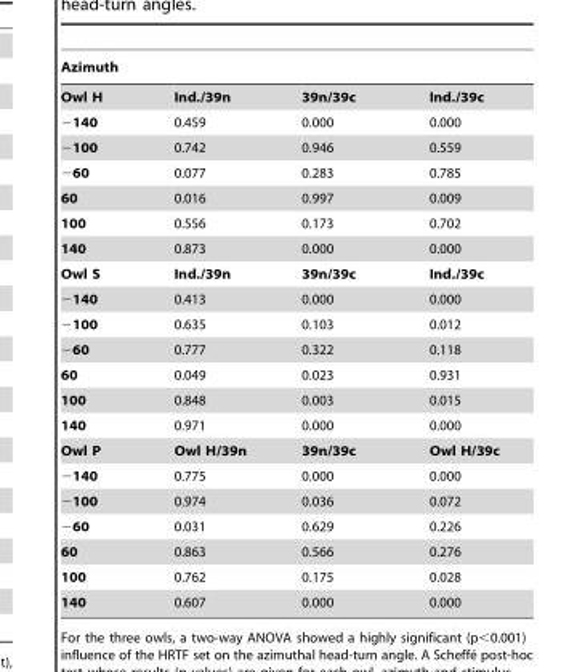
<table><thead><tr><td>Azimuth</td><td></td><td></td><td></td></tr></thead><tbody><tr><td>Owl H</td><td>Ind./39n</td><td>39n/39c</td><td>Ind./39c</td></tr><tr><td>−140</td><td>0.459</td><td>0.000</td><td>0.000</td></tr><tr><td>−100</td><td>0.742</td><td>0.946</td><td>0.559</td></tr><tr><td>−60</td><td>0.077</td><td>0.283</td><td>0.785</td></tr><tr><td>60</td><td>0.016</td><td>0.997</td><td>0.009</td></tr><tr><td>100</td><td>0.556</td><td>0.173</td><td>0.702</td></tr><tr><td>140</td><td>0.873</td><td>0.000</td><td>0.000</td></tr><tr><td>Owl S</td><td>Ind./39n</td><td>39n/39c</td><td>Ind./39c</td></tr><tr><td>−140</td><td>0.413</td><td>0.000</td><td>0.000</td></tr><tr><td>−100</td><td>0.635</td><td>0.103</td><td>0.012</td></tr><tr><td>−60</td><td>0.777</td><td>0.322</td><td>0.118</td></tr><tr><td>60</td><td>0.049</td><td>0.023</td><td>0.931</td></tr><tr><td>100</td><td>0.848</td><td>0.003</td><td>0.015</td></tr><tr><td>140</td><td>0.971</td><td>0.000</td><td>0.000</td></tr><tr><td>Owl P</td><td>Owl H/39n</td><td>39n/39c</td><td>Owl H/39c</td></tr><tr><td>−140</td><td>0.775</td><td>0.000</td><td>0.000</td></tr><tr><td>−100</td><td>0.974</td><td>0.036</td><td>0.072</td></tr><tr><td>−60</td><td>0.031</td><td>0.629</td><td>0.226</td></tr><tr><td>60</td><td>0.863</td><td>0.566</td><td>0.276</td></tr><tr><td>100</td><td>0.762</td><td>0.175</td><td>0.028</td></tr><tr><td>140</td><td>0.607</td><td>0.000</td><td>0.000</td></tr></tbody></table>